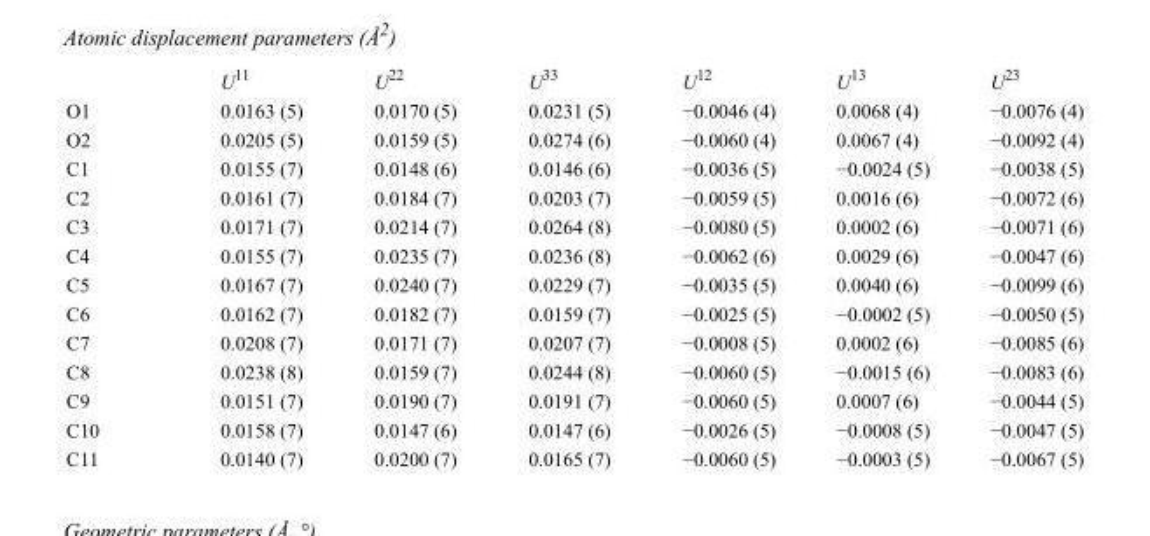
<table><thead><tr><td></td><td>U<sup>11</sup></td><td>U<sup>22</sup></td><td>U<sup>33</sup></td><td>U<sup>12</sup></td><td>U<sup>13</sup></td><td>U<sup>23</sup></td></tr></thead><tbody><tr><td>O1</td><td>0.0163 (5)</td><td>0.0170 (5)</td><td>0.0231 (5)</td><td>−0.0046 (4)</td><td>0.0068 (4)</td><td>−0.0076 (4)</td></tr><tr><td>O2</td><td>0.0205 (5)</td><td>0.0159 (5)</td><td>0.0274 (6)</td><td>−0.0060 (4)</td><td>0.0067 (4)</td><td>−0.0092 (4)</td></tr><tr><td>C1</td><td>0.0155 (7)</td><td>0.0148 (6)</td><td>0.0146 (6)</td><td>−0.0036 (5)</td><td>−0.0024 (5)</td><td>−0.0038 (5)</td></tr><tr><td>C2</td><td>0.0161 (7)</td><td>0.0184 (7)</td><td>0.0203 (7)</td><td>−0.0059 (5)</td><td>0.0016 (6)</td><td>−0.0072 (6)</td></tr><tr><td>C3</td><td>0.0171 (7)</td><td>0.0214 (7)</td><td>0.0264 (8)</td><td>−0.0080 (5)</td><td>0.0002 (6)</td><td>−0.0071 (6)</td></tr><tr><td>C4</td><td>0.0155 (7)</td><td>0.0235 (7)</td><td>0.0236 (8)</td><td>−0.0062 (6)</td><td>0.0029 (6)</td><td>−0.0047 (6)</td></tr><tr><td>C5</td><td>0.0167 (7)</td><td>0.0240 (7)</td><td>0.0229 (7)</td><td>−0.0035 (5)</td><td>0.0040 (6)</td><td>−0.0099 (6)</td></tr><tr><td>C6</td><td>0.0162 (7)</td><td>0.0182 (7)</td><td>0.0159 (7)</td><td>−0.0025 (5)</td><td>−0.0002 (5)</td><td>−0.0050 (5)</td></tr><tr><td>C7</td><td>0.0208 (7)</td><td>0.0171 (7)</td><td>0.0207 (7)</td><td>−0.0008 (5)</td><td>0.0002 (6)</td><td>−0.0085 (6)</td></tr><tr><td>C8</td><td>0.0238 (8)</td><td>0.0159 (7)</td><td>0.0244 (8)</td><td>−0.0060 (5)</td><td>−0.0015 (6)</td><td>−0.0083 (6)</td></tr><tr><td>C9</td><td>0.0151 (7)</td><td>0.0190 (7)</td><td>0.0191 (7)</td><td>−0.0060 (5)</td><td>0.0007 (6)</td><td>−0.0044 (5)</td></tr><tr><td>C10</td><td>0.0158 (7)</td><td>0.0147 (6)</td><td>0.0147 (6)</td><td>−0.0026 (5)</td><td>−0.0008 (5)</td><td>−0.0047 (5)</td></tr><tr><td>C11</td><td>0.0140 (7)</td><td>0.0200 (7)</td><td>0.0165 (7)</td><td>−0.0060 (5)</td><td>−0.0003 (5)</td><td>−0.0067 (5)</td></tr></tbody></table>